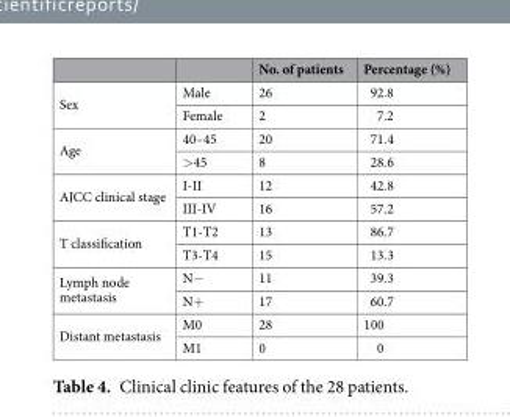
<table><thead><tr><td></td><td></td><td>No. of patients</td><td>Percentage (%)</td></tr></thead><tbody><tr><td rowspan="2">Sex</td><td>Male</td><td>26</td><td>92.8</td></tr><tr><td>Female</td><td>2</td><td>7.2</td></tr><tr><td rowspan="2">Age</td><td>40–45</td><td>20</td><td>71.4</td></tr><tr><td>&gt;45</td><td>8</td><td>28.6</td></tr><tr><td rowspan="2">AJCC clinical stage</td><td>I-II</td><td>12</td><td>42.8</td></tr><tr><td>III-IV</td><td>16</td><td>57.2</td></tr><tr><td rowspan="2">T classification</td><td>T1-T2</td><td>13</td><td>86.7</td></tr><tr><td>T3-T4</td><td>15</td><td>13.3</td></tr><tr><td rowspan="2">Lymph node metastasis</td><td>N−</td><td>11</td><td>39.3</td></tr><tr><td>N+</td><td>17</td><td>60.7</td></tr><tr><td rowspan="2">Distant metastasis</td><td>M0</td><td>28</td><td>100</td></tr><tr><td>M1</td><td>0</td><td>0</td></tr></tbody></table>